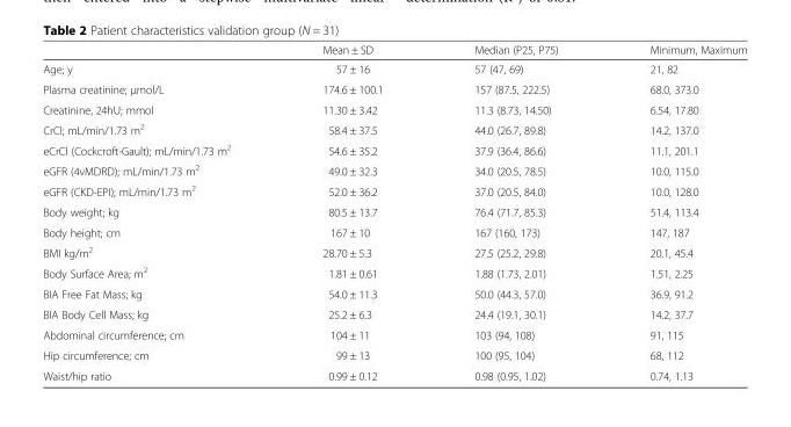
<table><thead><tr><td></td><td>Mean ± SD</td><td>Median (P25, P75)</td><td>Minimum, Maximum</td></tr></thead><tbody><tr><td>Age; y</td><td>57 ± 16</td><td>57 (47, 69)</td><td>21, 82</td></tr><tr><td>Plasma creatinine; μmol/L</td><td>174.6 ± 100.1</td><td>157 (87.5, 222.5)</td><td>68.0, 373.0</td></tr><tr><td>Creatinine, 24hU; mmol</td><td>11.30 ± 3.42</td><td>11.3 (8.73, 14.50)</td><td>6.54, 17.80</td></tr><tr><td>CrCl; mL/min/1.73 m<sup>2</sup></td><td>58.4 ± 37.5</td><td>44.0 (26.7, 89.8)</td><td>14.2, 137.0</td></tr><tr><td>eCrCl (Cockcroft-Gault); mL/min/1.73 m<sup>2</sup></td><td>54.6 ± 35.2</td><td>37.9 (36.4, 86.6)</td><td>11.1, 201.1</td></tr><tr><td>eGFR (4vMDRD); mL/min/1.73 m<sup>2</sup></td><td>49.0 ± 32.3</td><td>34.0 (20.5, 78.5)</td><td>10.0, 115.0</td></tr><tr><td>eGFR (CKD-EPI); mL/min/1.73 m<sup>2</sup></td><td>52.0 ± 36.2</td><td>37.0 (20.5, 84.0)</td><td>10.0, 128.0</td></tr><tr><td>Body weight; kg</td><td>80.5 ± 13.7</td><td>76.4 (71.7, 85.3)</td><td>51.4, 113.4</td></tr><tr><td>Body height; cm</td><td>167 ± 10</td><td>167 (160, 173)</td><td>147, 187</td></tr><tr><td>BMI kg/m<sup>2</sup></td><td>28.70 ± 5.3</td><td>27.5 (25.2, 29.8)</td><td>20.1, 45.4</td></tr><tr><td>Body Surface Area; m<sup>2</sup></td><td>1.81 ± 0.61</td><td>1.88 (1.73, 2.01)</td><td>1.51, 2.25</td></tr><tr><td>BIA Free Fat Mass; kg</td><td>54.0 ± 11.3</td><td>50.0 (44.3, 57.0)</td><td>36.9, 91.2</td></tr><tr><td>BIA Body Cell Mass; kg</td><td>25.2 ± 6.3</td><td>24.4 (19.1, 30.1)</td><td>14.2, 37.7</td></tr><tr><td>Abdominal circumference; cm</td><td>104 ± 11</td><td>103 (94, 108)</td><td>91, 115</td></tr><tr><td>Hip circumference; cm</td><td>99 ± 13</td><td>100 (95, 104)</td><td>68, 112</td></tr><tr><td>Waist/hip ratio</td><td>0.99 ± 0.12</td><td>0.98 (0.95, 1.02)</td><td>0.74, 1.13</td></tr></tbody></table>